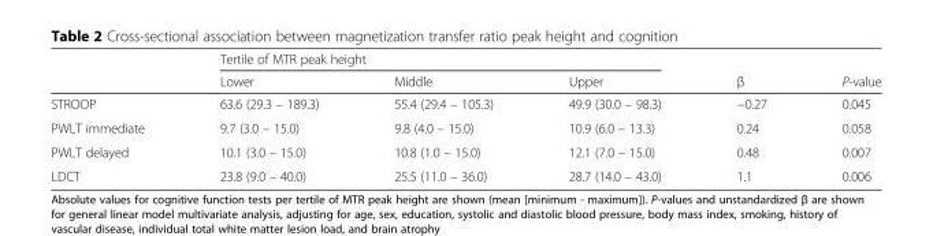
<table><thead><tr><td rowspan="2"></td><td colspan="3">Tertile of MTR peak height</td><td rowspan="2">β</td><td rowspan="2">P-value</td></tr><tr><td>Lower</td><td>Middle</td><td>Upper</td></tr></thead><tbody><tr><td>STROOP</td><td>63.6 (29.3 – 189.3)</td><td>55.4 (29.4 – 105.3)</td><td>49.9 (30.0 – 98.3)</td><td>−0.27</td><td>0.045</td></tr><tr><td>PWLT immediate</td><td>9.7 (3.0 – 15.0)</td><td>9.8 (4.0 – 15.0)</td><td>10.9 (6.0 – 13.3)</td><td>0.24</td><td>0.058</td></tr><tr><td>PWLT delayed</td><td>10.1 (3.0 – 15.0)</td><td>10.8 (1.0 – 15.0)</td><td>12.1 (7.0 – 15.0)</td><td>0.48</td><td>0.007</td></tr><tr><td>LDCT</td><td>23.8 (9.0 – 40.0)</td><td>25.5 (11.0 – 36.0)</td><td>28.7 (14.0 – 43.0)</td><td>1.1</td><td>0.006</td></tr></tbody></table>